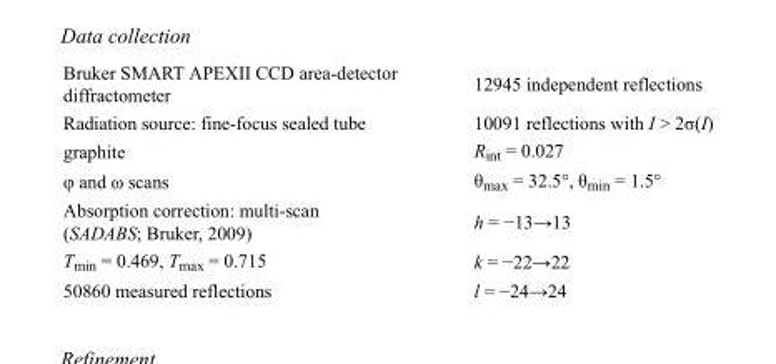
<table><tbody><tr><td>Bruker SMART APEXII CCD area-detector diffractometer</td><td>12945 independent reflections</td></tr><tr><td>Radiation source: fine-focus sealed tube</td><td>10091 reflections with I &gt; 2σ(I)</td></tr><tr><td>graphite</td><td>R<sub>int</sub> = 0.027</td></tr><tr><td>φ and ω scans</td><td>θ<sub>max</sub> = 32.5°, θ<sub>min</sub> = 1.5°</td></tr><tr><td>Absorption correction: multi-scan (SADABS; Bruker, 2009)</td><td>h = −13→13</td></tr><tr><td>T<sub>min</sub> = 0.469, T<sub>max</sub> = 0.715</td><td>k = −22→22</td></tr><tr><td>50860 measured reflections</td><td>l = −24→24</td></tr></tbody></table>